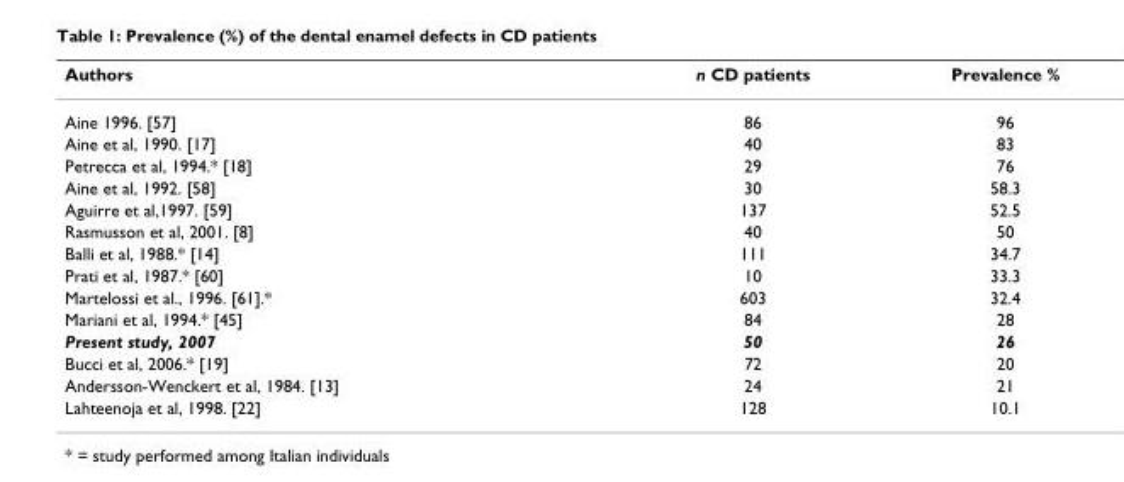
<table><thead><tr><td>Authors</td><td>n CD patients</td><td>Prevalence %</td></tr></thead><tbody><tr><td>Aine 1996. [57]</td><td>86</td><td>96</td></tr><tr><td>Aine et al, 1990. [17]</td><td>40</td><td>83</td></tr><tr><td>Petrecca et al, 1994.* [18]</td><td>29</td><td>76</td></tr><tr><td>Aine et al, 1992. [58]</td><td>30</td><td>58.3</td></tr><tr><td>Aguirre et al,1997. [59]</td><td>137</td><td>52.5</td></tr><tr><td>Rasmusson et al, 2001. [8]</td><td>40</td><td>50</td></tr><tr><td>Balli et al, 1988.* [14]</td><td>111</td><td>34.7</td></tr><tr><td>Prati et al, 1987.* [60]</td><td>10</td><td>33.3</td></tr><tr><td>Martelossi et al., 1996. [61].*</td><td>603</td><td>32.4</td></tr><tr><td>Mariani et al, 1994.* [45]</td><td>84</td><td>28</td></tr><tr><td>Present study, 2007</td><td>50</td><td>26</td></tr><tr><td>Bucci et al, 2006.* [19]</td><td>72</td><td>20</td></tr><tr><td>Andersson-Wenckert et al, 1984. [13]</td><td>24</td><td>21</td></tr><tr><td>Lahteenoja et al, 1998. [22]</td><td>128</td><td>10.1</td></tr></tbody></table>